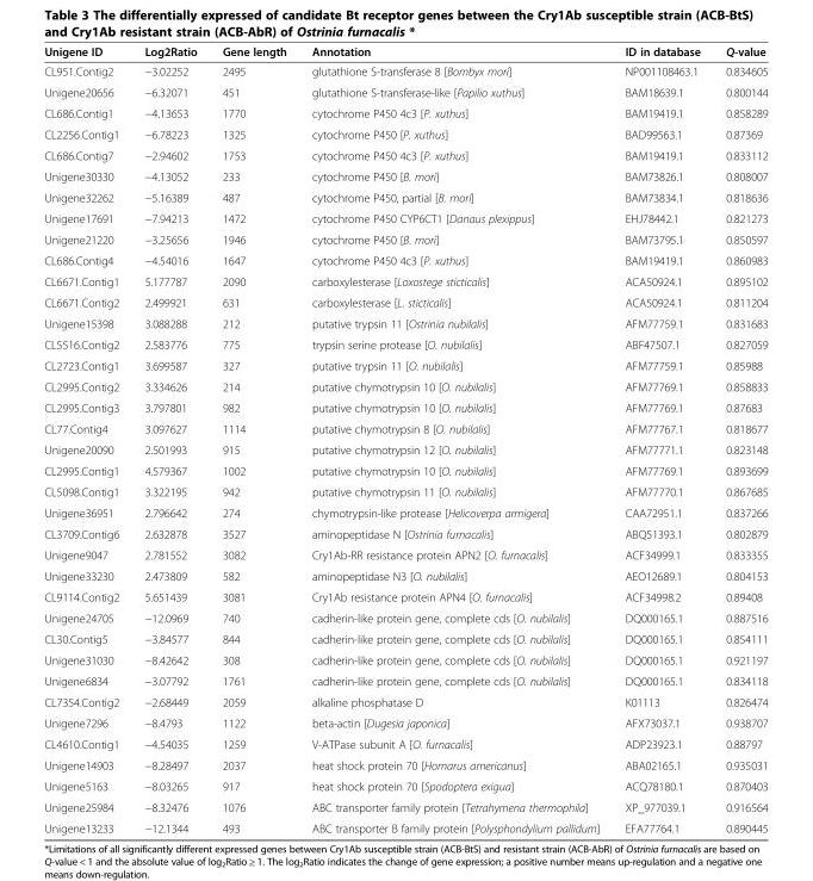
<table><thead><tr><td>Unigene ID</td><td>Log2Ratio</td><td>Gene length</td><td>Annotation</td><td>ID in database</td><td>Q-value</td></tr></thead><tbody><tr><td>CL951.Contig2</td><td>−3.02252</td><td>2495</td><td>glutathione S-transferase 8 [Bombyx mori]</td><td>NP001108463.1</td><td>0.834605</td></tr><tr><td>Unigene20656</td><td>−6.32071</td><td>451</td><td>glutathione S-transferase-like [Papilio xuthus]</td><td>BAM18639.1</td><td>0.800144</td></tr><tr><td>CL686.Contig1</td><td>−4.13653</td><td>1770</td><td>cytochrome P450 4c3 [P. xuthus]</td><td>BAM19419.1</td><td>0.858289</td></tr><tr><td>CL2256.Contig1</td><td>−6.78223</td><td>1325</td><td>cytochrome P450 [P. xuthus]</td><td>BAD99563.1</td><td>0.87369</td></tr><tr><td>CL686.Contig7</td><td>−2.94602</td><td>1753</td><td>cytochrome P450 4c3 [P. xuthus]</td><td>BAM19419.1</td><td>0.833112</td></tr><tr><td>Unigene30330</td><td>−4.13052</td><td>233</td><td>cytochrome P450 [B. mori]</td><td>BAM73826.1</td><td>0.808007</td></tr><tr><td>Unigene32262</td><td>−5.16389</td><td>487</td><td>cytochrome P450, partial [B. mori]</td><td>BAM73834.1</td><td>0.818636</td></tr><tr><td>Unigene17691</td><td>−7.94213</td><td>1472</td><td>cytochrome P450 CYP6CT1 [Danaus plexippus]</td><td>EHJ78442.1</td><td>0.821273</td></tr><tr><td>Unigene21220</td><td>−3.25656</td><td>1946</td><td>cytochrome P450 [B. mori]</td><td>BAM73795.1</td><td>0.850597</td></tr><tr><td>CL686.Contig4</td><td>−4.54016</td><td>1647</td><td>cytochrome P450 4c3 [P. xuthus]</td><td>BAM19419.1</td><td>0.860983</td></tr><tr><td>CL6671.Contig1</td><td>5.177787</td><td>2090</td><td>carboxylesterase [Loxostege sticticalis]</td><td>ACA50924.1</td><td>0.895102</td></tr><tr><td>CL6671.Contig2</td><td>2.499921</td><td>631</td><td>carboxylesterase [L. sticticalis]</td><td>ACA50924.1</td><td>0.811204</td></tr><tr><td>Unigene15398</td><td>3.088288</td><td>212</td><td>putative trypsin 11 [Ostrinia nubilalis]</td><td>AFM77759.1</td><td>0.831683</td></tr><tr><td>CL5516.Contig2</td><td>2.583776</td><td>775</td><td>trypsin serine protease [O. nubilalis]</td><td>ABF47507.1</td><td>0.827059</td></tr><tr><td>CL2723.Contig1</td><td>3.699587</td><td>327</td><td>putative trypsin 11 [O. nubilalis]</td><td>AFM77759.1</td><td>0.85988</td></tr><tr><td>CL2995.Contig2</td><td>3.334626</td><td>214</td><td>putative chymotrypsin 10 [O. nubilalis]</td><td>AFM77769.1</td><td>0.858833</td></tr><tr><td>CL2995.Contig3</td><td>3.797801</td><td>982</td><td>putative chymotrypsin 10 [O. nubilalis]</td><td>AFM77769.1</td><td>0.87683</td></tr><tr><td>CL77.Contig4</td><td>3.097627</td><td>1114</td><td>putative chymotrypsin 8 [O. nubilalis]</td><td>AFM77767.1</td><td>0.818677</td></tr><tr><td>Unigene20090</td><td>2.501993</td><td>915</td><td>putative chymotrypsin 12 [O. nubilalis]</td><td>AFM77771.1</td><td>0.823148</td></tr><tr><td>CL2995.Contig1</td><td>4.579367</td><td>1002</td><td>putative chymotrypsin 10 [O. nubilalis]</td><td>AFM77769.1</td><td>0.893699</td></tr><tr><td>CL5098.Contig1</td><td>3.322195</td><td>942</td><td>putative chymotrypsin 11 [O. nubilalis]</td><td>AFM77770.1</td><td>0.867685</td></tr><tr><td>Unigene36951</td><td>2.796642</td><td>274</td><td>chymotrypsin-like protease [Helicoverpa armigera]</td><td>CAA72951.1</td><td>0.837266</td></tr><tr><td>CL3709.Contig6</td><td>2.632878</td><td>3527</td><td>aminopeptidase N [Ostrinia furnacalis]</td><td>ABQ51393.1</td><td>0.802879</td></tr><tr><td>Unigene9047</td><td>2.781552</td><td>3082</td><td>Cry1Ab-RR resistance protein APN2 [O. furnacalis]</td><td>ACF34999.1</td><td>0.833355</td></tr><tr><td>Unigene33230</td><td>2.473809</td><td>582</td><td>aminopeptidase N3 [O. nubilalis]</td><td>AEO12689.1</td><td>0.804153</td></tr><tr><td>CL9114.Contig2</td><td>5.651439</td><td>3081</td><td>Cry1Ab resistance protein APN4 [O. furnacalis]</td><td>ACF34998.2</td><td>0.89408</td></tr><tr><td>Unigene24705</td><td>−12.0969</td><td>740</td><td>cadherin-like protein gene, complete cds [O. nubilalis]</td><td>DQ000165.1</td><td>0.887516</td></tr><tr><td>CL30.Contig5</td><td>−3.84577</td><td>844</td><td>cadherin-like protein gene, complete cds [O. nubilalis]</td><td>DQ000165.1</td><td>0.854111</td></tr><tr><td>Unigene31030</td><td>−8.42642</td><td>308</td><td>cadherin-like protein gene, complete cds [O. nubilalis]</td><td>DQ000165.1</td><td>0.921197</td></tr><tr><td>Unigene6834</td><td>−3.07792</td><td>1761</td><td>cadherin-like protein gene, complete cds [O. nubilalis]</td><td>DQ000165.1</td><td>0.834118</td></tr><tr><td>CL7354.Contig2</td><td>−2.68449</td><td>2059</td><td>alkaline phosphatase D</td><td>K01113</td><td>0.826474</td></tr><tr><td>Unigene7296</td><td>−8.4793</td><td>1122</td><td>beta-actin [Dugesia japonica]</td><td>AFX73037.1</td><td>0.938707</td></tr><tr><td>CL4610.Contig1</td><td>−4.54035</td><td>1259</td><td>V-ATPase subunit A [O. furnacalis]</td><td>ADP23923.1</td><td>0.88797</td></tr><tr><td>Unigene14903</td><td>−8.28497</td><td>2037</td><td>heat shock protein 70 [Homarus americanus]</td><td>ABA02165.1</td><td>0.935031</td></tr><tr><td>Unigene5163</td><td>−8.03265</td><td>917</td><td>heat shock protein 70 [Spodoptera exigua]</td><td>ACQ78180.1</td><td>0.870403</td></tr><tr><td>Unigene25984</td><td>−8.32476</td><td>1076</td><td>ABC transporter family protein [Tetrahymena thermophila]</td><td>XP_977039.1</td><td>0.916564</td></tr><tr><td>Unigene13233</td><td>−12.1344</td><td>493</td><td>ABC transporter B family protein [Polysphondylium pallidum]</td><td>EFA77764.1</td><td>0.890445</td></tr></tbody></table>